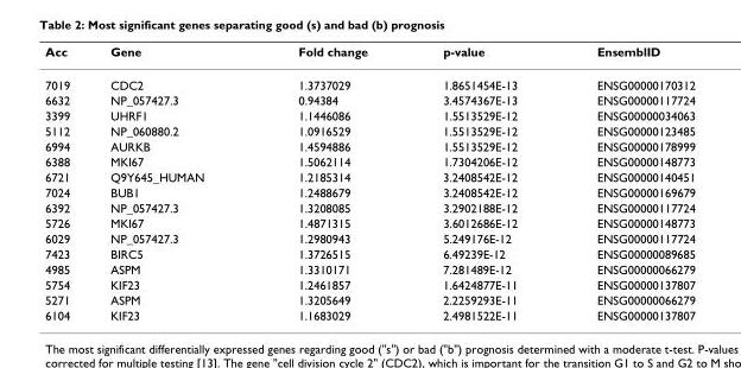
<table><thead><tr><td>Acc</td><td>Gene</td><td>Fold change</td><td>p-value</td><td>EnsemblID</td></tr></thead><tbody><tr><td>7019</td><td>CDC2</td><td>1.3737029</td><td>1.8651454E-13</td><td>ENSG00000170312</td></tr><tr><td>6632</td><td>NP_057427.3</td><td>0.94384</td><td>3.4574367E-13</td><td>ENSG00000117724</td></tr><tr><td>3399</td><td>UHRF1</td><td>1.1446086</td><td>1.5513529E-12</td><td>ENSG00000034063</td></tr><tr><td>5112</td><td>NP_060880.2</td><td>1.0916529</td><td>1.5513529E-12</td><td>ENSG00000123485</td></tr><tr><td>6994</td><td>AURKB</td><td>1.4594886</td><td>1.5513529E-12</td><td>ENSG00000178999</td></tr><tr><td>6388</td><td>MKI67</td><td>1.5062114</td><td>1.7304206E-12</td><td>ENSG00000148773</td></tr><tr><td>6721</td><td>Q9Y645_HUMAN</td><td>1.2185314</td><td>3.2408542E-12</td><td>ENSG00000140451</td></tr><tr><td>7024</td><td>BUB1</td><td>1.2488679</td><td>3.2408542E-12</td><td>ENSG00000169679</td></tr><tr><td>6392</td><td>NP_057427.3</td><td>1.3208085</td><td>3.2902188E-12</td><td>ENSG00000117724</td></tr><tr><td>5726</td><td>MKI67</td><td>1.4871315</td><td>3.6012686E-12</td><td>ENSG00000148773</td></tr><tr><td>6029</td><td>NP_057427.3</td><td>1.2980943</td><td>5.249176E-12</td><td>ENSG00000117724</td></tr><tr><td>7423</td><td>BIRC5</td><td>1.3726515</td><td>6.49239E-12</td><td>ENSG00000089685</td></tr><tr><td>4985</td><td>ASPM</td><td>1.3310171</td><td>7.281489E-12</td><td>ENSG00000066279</td></tr><tr><td>5754</td><td>KIF23</td><td>1.2461857</td><td>1.6424877E-11</td><td>ENSG00000137807</td></tr><tr><td>5271</td><td>ASPM</td><td>1.3205649</td><td>2.2259293E-11</td><td>ENSG00000066279</td></tr><tr><td>6104</td><td>KIF23</td><td>1.1683029</td><td>2.4981522E-11</td><td>ENSG00000137807</td></tr></tbody></table>